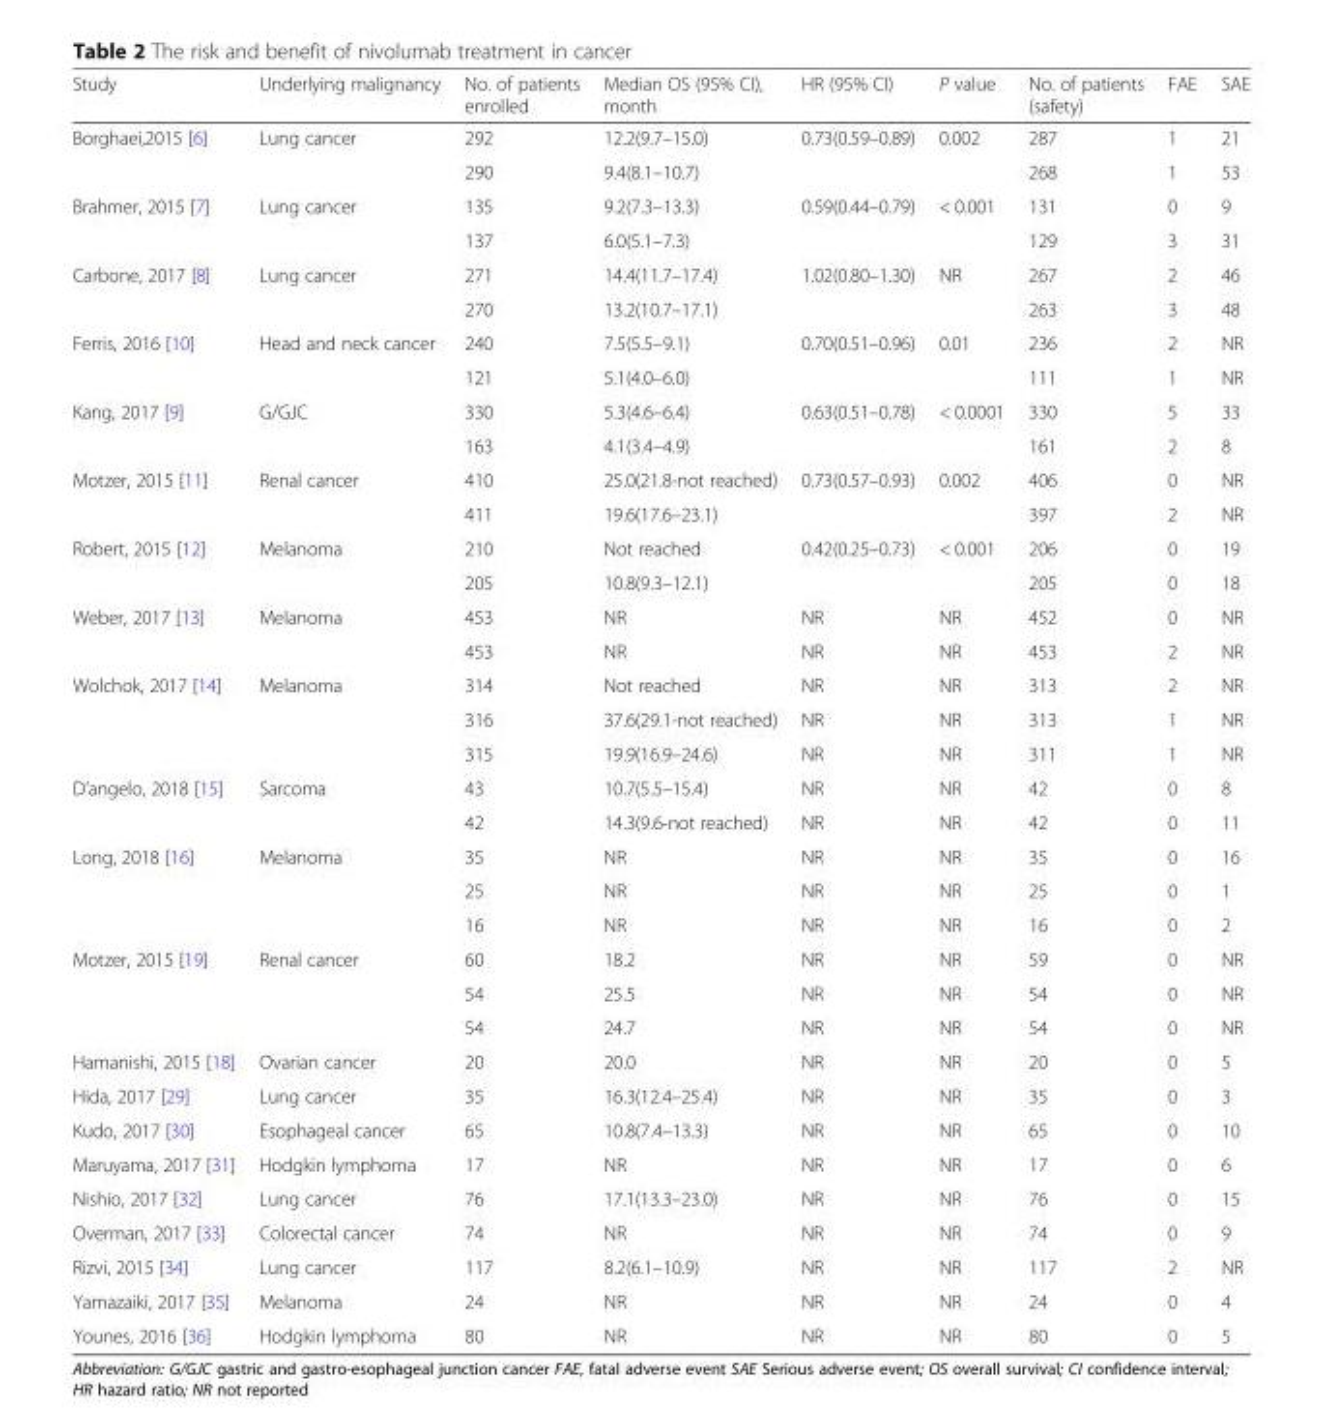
<table><thead><tr><td>Study</td><td>Underlying malignancy</td><td>No. of patients enrolled</td><td>Median OS (95% CI), month</td><td>HR (95% CI)</td><td>P value</td><td>No. of patients (safety)</td><td>FAE</td><td>SAE</td></tr></thead><tbody><tr><td rowspan="2">Borghaei,2015 [6]</td><td rowspan="2">Lung cancer</td><td>292</td><td>12.2(9.7–15.0)</td><td rowspan="2">0.73(0.59–0.89)</td><td rowspan="2">0.002</td><td>287</td><td>1</td><td>21</td></tr><tr><td>290</td><td>9.4(8.1–10.7)</td><td>268</td><td>1</td><td>53</td></tr><tr><td rowspan="2">Brahmer, 2015 [7]</td><td rowspan="2">Lung cancer</td><td>135</td><td>9.2(7.3–13.3)</td><td rowspan="2">0.59(0.44–0.79)</td><td rowspan="2">&lt; 0.001</td><td>131</td><td>0</td><td>9</td></tr><tr><td>137</td><td>6.0(5.1–7.3)</td><td>129</td><td>3</td><td>31</td></tr><tr><td rowspan="2">Carbone, 2017 [8]</td><td rowspan="2">Lung cancer</td><td>271</td><td>14.4(11.7–17.4)</td><td rowspan="2">1.02(0.80–1.30)</td><td rowspan="2">NR</td><td>267</td><td>2</td><td>46</td></tr><tr><td>270</td><td>13.2(10.7–17.1)</td><td>263</td><td>3</td><td>48</td></tr><tr><td rowspan="2">Ferris, 2016 [10]</td><td rowspan="2">Head and neck cancer</td><td>240</td><td>7.5(5.5–9.1)</td><td rowspan="2">0.70(0.51–0.96)</td><td rowspan="2">0.01</td><td>236</td><td>2</td><td>NR</td></tr><tr><td>121</td><td>5.1(4.0–6.0)</td><td>111</td><td>1</td><td>NR</td></tr><tr><td rowspan="2">Kang, 2017 [9]</td><td rowspan="2">G/GJC</td><td>330</td><td>5.3(4.6–6.4)</td><td rowspan="2">0.63(0.51–0.78)</td><td rowspan="2">&lt; 0.0001</td><td>330</td><td>5</td><td>33</td></tr><tr><td>163</td><td>4.1(3.4–4.9)</td><td>161</td><td>2</td><td>8</td></tr><tr><td rowspan="2">Motzer, 2015 [11]</td><td rowspan="2">Renal cancer</td><td>410</td><td>25.0(21.8-not reached)</td><td rowspan="2">0.73(0.57–0.93)</td><td rowspan="2">0.002</td><td>406</td><td>0</td><td>NR</td></tr><tr><td>411</td><td>19.6(17.6–23.1)</td><td>397</td><td>2</td><td>NR</td></tr><tr><td rowspan="2">Robert, 2015 [12]</td><td rowspan="2">Melanoma</td><td>210</td><td>Not reached</td><td rowspan="2">0.42(0.25–0.73)</td><td rowspan="2">&lt; 0.001</td><td>206</td><td>0</td><td>19</td></tr><tr><td>205</td><td>10.8(9.3–12.1)</td><td>205</td><td>0</td><td>18</td></tr><tr><td rowspan="2">Weber, 2017 [13]</td><td rowspan="2">Melanoma</td><td>453</td><td>NR</td><td>NR</td><td>NR</td><td>452</td><td>0</td><td>NR</td></tr><tr><td>453</td><td>NR</td><td>NR</td><td>NR</td><td>453</td><td>2</td><td>NR</td></tr><tr><td rowspan="3">Wolchok, 2017 [14]</td><td rowspan="3">Melanoma</td><td>314</td><td>Not reached</td><td>NR</td><td>NR</td><td>313</td><td>2</td><td>NR</td></tr><tr><td>316</td><td>37.6(29.1-not reached)</td><td>NR</td><td>NR</td><td>313</td><td>1</td><td>NR</td></tr><tr><td>315</td><td>19.9(16.9–24.6)</td><td>NR</td><td>NR</td><td>311</td><td>1</td><td>NR</td></tr><tr><td rowspan="2">D’angelo, 2018 [15]</td><td rowspan="2">Sarcoma</td><td>43</td><td>10.7(5.5–15.4)</td><td>NR</td><td>NR</td><td>42</td><td>0</td><td>8</td></tr><tr><td>42</td><td>14.3(9.6-not reached)</td><td>NR</td><td>NR</td><td>42</td><td>0</td><td>11</td></tr><tr><td rowspan="3">Long, 2018 [16]</td><td rowspan="3">Melanoma</td><td>35</td><td>NR</td><td>NR</td><td>NR</td><td>35</td><td>0</td><td>16</td></tr><tr><td>25</td><td>NR</td><td>NR</td><td>NR</td><td>25</td><td>0</td><td>1</td></tr><tr><td>16</td><td>NR</td><td>NR</td><td>NR</td><td>16</td><td>0</td><td>2</td></tr><tr><td rowspan="3">Motzer, 2015 [19]</td><td rowspan="3">Renal cancer</td><td>60</td><td>18.2</td><td>NR</td><td>NR</td><td>59</td><td>0</td><td>NR</td></tr><tr><td>54</td><td>25.5</td><td>NR</td><td>NR</td><td>54</td><td>0</td><td>NR</td></tr><tr><td>54</td><td>24.7</td><td>NR</td><td>NR</td><td>54</td><td>0</td><td>NR</td></tr><tr><td>Hamanishi, 2015 [18]</td><td>Ovarian cancer</td><td>20</td><td>20.0</td><td>NR</td><td>NR</td><td>20</td><td>0</td><td>5</td></tr><tr><td>Hida, 2017 [29]</td><td>Lung cancer</td><td>35</td><td>16.3(12.4–25.4)</td><td>NR</td><td>NR</td><td>35</td><td>0</td><td>3</td></tr><tr><td>Kudo, 2017 [30]</td><td>Esophageal cancer</td><td>65</td><td>10.8(7.4–13.3)</td><td>NR</td><td>NR</td><td>65</td><td>0</td><td>10</td></tr><tr><td>Maruyama, 2017 [31]</td><td>Hodgkin lymphoma</td><td>17</td><td>NR</td><td>NR</td><td>NR</td><td>17</td><td>0</td><td>6</td></tr><tr><td>Nishio, 2017 [32]</td><td>Lung cancer</td><td>76</td><td>17.1(13.3–23.0)</td><td>NR</td><td>NR</td><td>76</td><td>0</td><td>15</td></tr><tr><td>Overman, 2017 [33]</td><td>Colorectal cancer</td><td>74</td><td>NR</td><td>NR</td><td>NR</td><td>74</td><td>0</td><td>9</td></tr><tr><td>Rizvi, 2015 [34]</td><td>Lung cancer</td><td>117</td><td>8.2(6.1–10.9)</td><td>NR</td><td>NR</td><td>117</td><td>2</td><td>NR</td></tr><tr><td>Yamazaiki, 2017 [35]</td><td>Melanoma</td><td>24</td><td>NR</td><td>NR</td><td>NR</td><td>24</td><td>0</td><td>4</td></tr><tr><td>Younes, 2016 [36]</td><td>Hodgkin lymphoma</td><td>80</td><td>NR</td><td>NR</td><td>NR</td><td>80</td><td>0</td><td>5</td></tr></tbody></table>